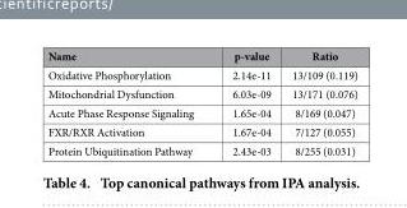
<table><thead><tr><td>Name</td><td>p-value</td><td>Ratio</td></tr></thead><tbody><tr><td>Oxidative Phosphorylation</td><td>2.14e-11</td><td>13/109 (0.119)</td></tr><tr><td>Mitochondrial Dysfunction</td><td>6.03e-09</td><td>13/171 (0.076)</td></tr><tr><td>Acute Phase Response Signaling</td><td>1.65e-04</td><td>8/169 (0.047)</td></tr><tr><td>FXR/RXR Activation</td><td>1.67e-04</td><td>7/127 (0.055)</td></tr><tr><td>Protein Ubiquitination Pathway</td><td>2.43e-03</td><td>8/255 (0.031)</td></tr></tbody></table>